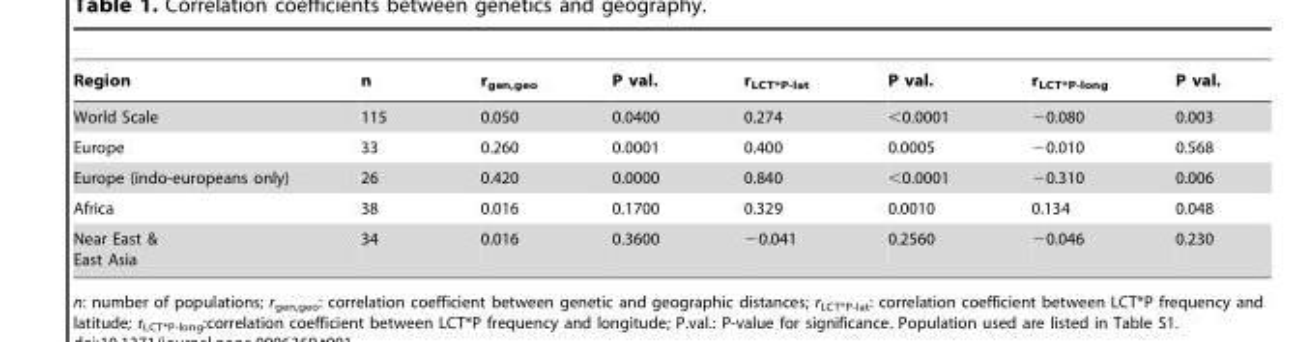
<table><thead><tr><td>Region</td><td>n</td><td>r<sub>gen,geo</sub></td><td>P val.</td><td>r<sub>LCT*P-lat</sub></td><td>P val.</td><td>r<sub>LCT*P-long</sub></td><td>P val.</td></tr></thead><tbody><tr><td>World Scale</td><td>115</td><td>0.050</td><td>0.0400</td><td>0.274</td><td>&lt;0.0001</td><td>−0.080</td><td>0.003</td></tr><tr><td>Europe</td><td>33</td><td>0.260</td><td>0.0001</td><td>0.400</td><td>0.0005</td><td>−0.010</td><td>0.568</td></tr><tr><td>Europe (indo-europeans only)</td><td>26</td><td>0.420</td><td>0.0000</td><td>0.840</td><td>&lt;0.0001</td><td>−0.310</td><td>0.006</td></tr><tr><td>Africa</td><td>38</td><td>0.016</td><td>0.1700</td><td>0.329</td><td>0.0010</td><td>0.134</td><td>0.048</td></tr><tr><td>Near East &amp; East Asia</td><td>34</td><td>0.016</td><td>0.3600</td><td>−0.041</td><td>0.2560</td><td>−0.046</td><td>0.230</td></tr></tbody></table>